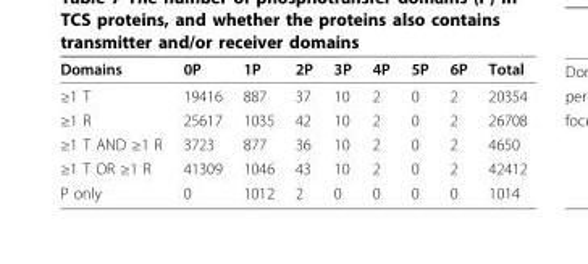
<table><thead><tr><td>Domains</td><td>0P</td><td>1P</td><td>2P</td><td>3P</td><td>4P</td><td>5P</td><td>6P</td><td>Total</td></tr></thead><tbody><tr><td>≥1 T</td><td>19416</td><td>887</td><td>37</td><td>10</td><td>2</td><td>0</td><td>2</td><td>20354</td></tr><tr><td>≥1 R</td><td>25617</td><td>1035</td><td>42</td><td>10</td><td>2</td><td>0</td><td>2</td><td>26708</td></tr><tr><td>≥1 T AND ≥1 R</td><td>3723</td><td>877</td><td>36</td><td>10</td><td>2</td><td>0</td><td>2</td><td>4650</td></tr><tr><td>≥1 T OR ≥1 R</td><td>41309</td><td>1046</td><td>43</td><td>10</td><td>2</td><td>0</td><td>2</td><td>42412</td></tr><tr><td>P only</td><td>0</td><td>1012</td><td>2</td><td>0</td><td>0</td><td>0</td><td>0</td><td>1014</td></tr></tbody></table>